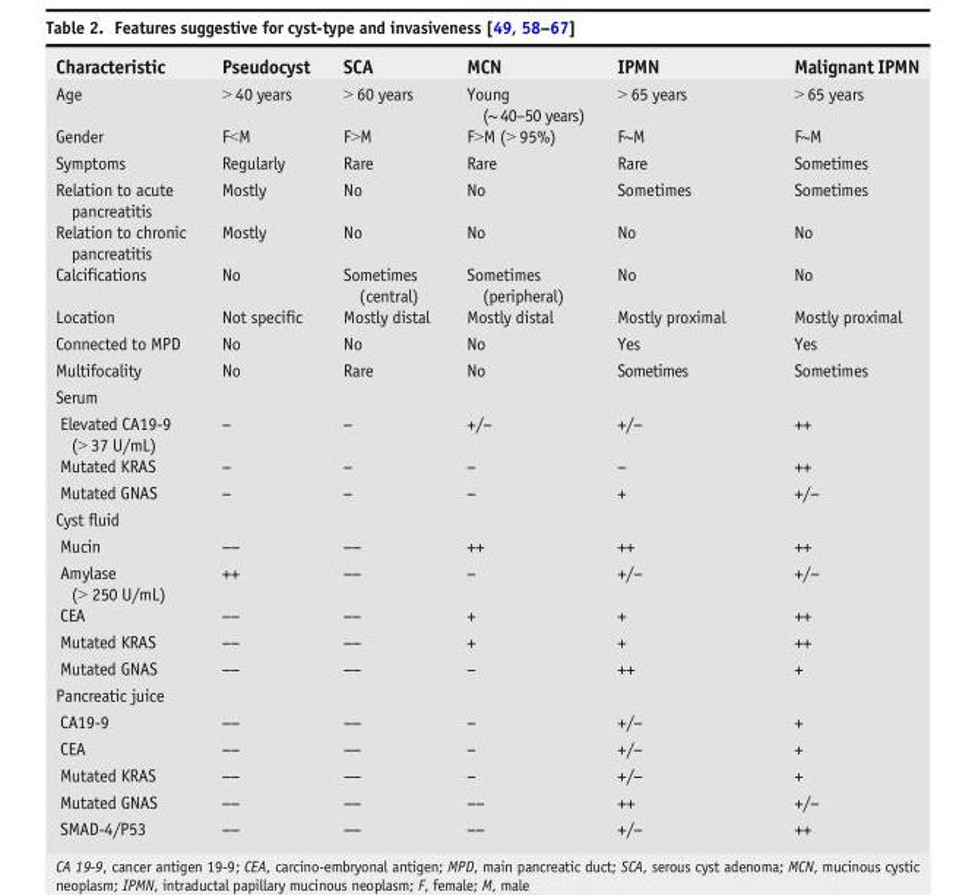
<table><thead><tr><td>Characteristic</td><td>Pseudocyst</td><td>SCA</td><td>MCN</td><td>IPMN</td><td>Malignant IPMN</td></tr></thead><tbody><tr><td>Age</td><td>&gt; 40 years</td><td>&gt; 60 years</td><td>Young (~ 40–50 years)</td><td>&gt; 65 years</td><td>&gt; 65 years</td></tr><tr><td>Gender</td><td>F&lt;M</td><td>F&gt;M</td><td>F&gt;M (&gt; 95%)</td><td>F~M</td><td>F~M</td></tr><tr><td>Symptoms</td><td>Regularly</td><td>Rare</td><td>Rare</td><td>Rare</td><td>Sometimes</td></tr><tr><td>Relation to acute pancreatitis</td><td>Mostly</td><td>No</td><td>No</td><td>Sometimes</td><td>Sometimes</td></tr><tr><td>Relation to chronic pancreatitis</td><td>Mostly</td><td>No</td><td>No</td><td>No</td><td>No</td></tr><tr><td>Calcifications</td><td>No</td><td>Sometimes (central)</td><td>Sometimes (peripheral)</td><td>No</td><td>No</td></tr><tr><td>Location</td><td>Not specific</td><td>Mostly distal</td><td>Mostly distal</td><td>Mostly proximal</td><td>Mostly proximal</td></tr><tr><td>Connected to MPD</td><td>No</td><td>No</td><td>No</td><td>Yes</td><td>Yes</td></tr><tr><td>Multifocality</td><td>No</td><td>Rare</td><td>No</td><td>Sometimes</td><td>Sometimes</td></tr><tr><td colspan="6">Serum</td></tr><tr><td>Elevated CA19-9 (&gt; 37 U/mL)</td><td>−</td><td>−</td><td>+/−</td><td>+/−</td><td>++</td></tr><tr><td>Mutated KRAS</td><td>−</td><td>−</td><td>−</td><td>−</td><td>++</td></tr><tr><td>Mutated GNAS</td><td>−</td><td>−</td><td>−</td><td>+</td><td>+/−</td></tr><tr><td colspan="6">Cyst fluid</td></tr><tr><td>Mucin</td><td>−−</td><td>−−</td><td>++</td><td>++</td><td>++</td></tr><tr><td>Amylase (&gt; 250 U/mL)</td><td>++</td><td>−−</td><td>−</td><td>+/−</td><td>+/−</td></tr><tr><td>CEA</td><td>−−</td><td>−−</td><td>+</td><td>+</td><td>++</td></tr><tr><td>Mutated KRAS</td><td>−−</td><td>−−</td><td>+</td><td>+</td><td>++</td></tr><tr><td>Mutated GNAS</td><td>−−</td><td>−−</td><td>−</td><td>++</td><td>+</td></tr><tr><td colspan="6">Pancreatic juice</td></tr><tr><td>CA19-9</td><td>−−</td><td>−−</td><td>−</td><td>+/−</td><td>+</td></tr><tr><td>CEA</td><td>−−</td><td>−−</td><td>−</td><td>+/−</td><td>+</td></tr><tr><td>Mutated KRAS</td><td>−−</td><td>−−</td><td>−</td><td>+/−</td><td>+</td></tr><tr><td>Mutated GNAS</td><td>−−</td><td>−−</td><td>−−</td><td>++</td><td>+/−</td></tr><tr><td>SMAD-4/P53</td><td>−−</td><td>−−</td><td>−−</td><td>+/−</td><td>++</td></tr></tbody></table>